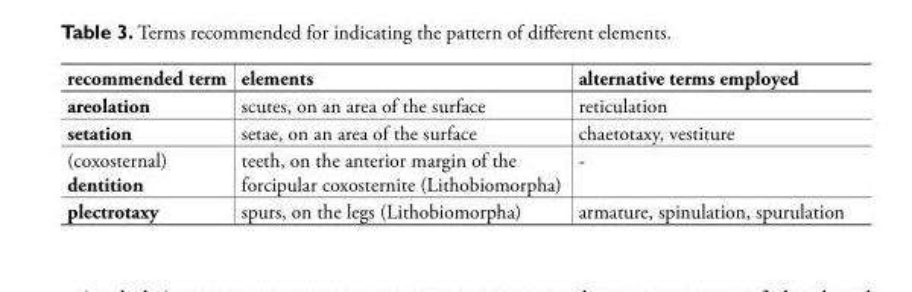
<table><thead><tr><td>recommended term</td><td>elements</td><td>alternative terms employed</td></tr></thead><tbody><tr><td>areolation</td><td>scutes, on an area of the surface</td><td>reticulation</td></tr><tr><td>setation</td><td>setae, on an area of the surface</td><td>chaetotaxy, vestiture</td></tr><tr><td>(coxosternal) dentition</td><td>teeth, on the anterior margin of the forcipular coxosternite (Lithobiomorpha)</td><td>-</td></tr><tr><td>plectrotaxy</td><td>spurs, on the legs (Lithobiomorpha)</td><td>armature, spinulation, spurulation</td></tr></tbody></table>